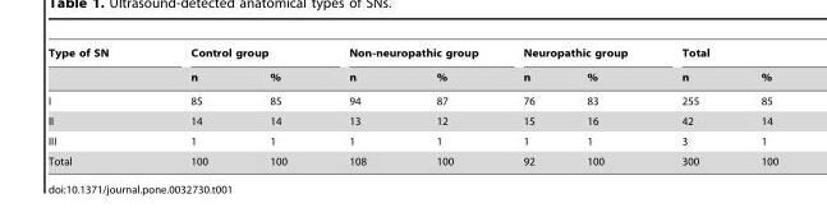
<table><thead><tr><td rowspan="2">Type of SN</td><td colspan="2">Control group</td><td colspan="2">Non-neuropathic group</td><td colspan="2">Neuropathic group</td><td colspan="2">Total</td></tr><tr><td>n</td><td>%</td><td>n</td><td>%</td><td>n</td><td>%</td><td>n</td><td>%</td></tr></thead><tbody><tr><td>I</td><td>85</td><td>85</td><td>94</td><td>87</td><td>76</td><td>83</td><td>255</td><td>85</td></tr><tr><td>II</td><td>14</td><td>14</td><td>13</td><td>12</td><td>15</td><td>16</td><td>42</td><td>14</td></tr><tr><td>III</td><td>1</td><td>1</td><td>1</td><td>1</td><td>1</td><td>1</td><td>3</td><td>1</td></tr><tr><td>Total</td><td>100</td><td>100</td><td>108</td><td>100</td><td>92</td><td>100</td><td>300</td><td>100</td></tr></tbody></table>